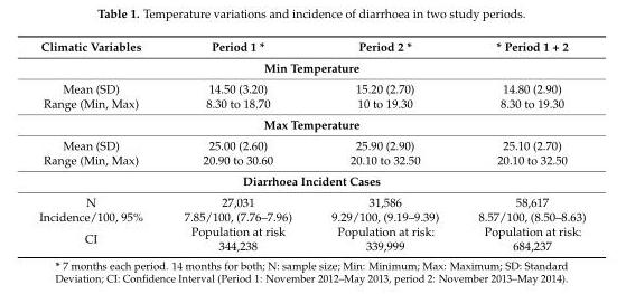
<table><thead><tr><td>Climatic Variables</td><td>Period 1 *</td><td>Period 2 *</td><td>* Period 1 + 2</td></tr></thead><tbody><tr><td colspan="4">Min Temperature</td></tr><tr><td>Mean (SD)</td><td>14.50 (3.20)</td><td>15.20 (2.70)</td><td>14.80 (2.90)</td></tr><tr><td>Range (Min, Max)</td><td>8.30 to 18.70</td><td>10 to 19.30</td><td>8.30 to 19.30</td></tr><tr><td colspan="4">Max Temperature</td></tr><tr><td>Mean (SD)</td><td>25.00 (2.60)</td><td>25.90 (2.90)</td><td>25.10 (2.70)</td></tr><tr><td>Range (Min, Max)</td><td>20.90 to 30.60</td><td>20.10 to 32.50</td><td>20.10 to 32.50</td></tr><tr><td colspan="4">Diarrhoea Incident Cases</td></tr><tr><td>N</td><td>27,031</td><td>31,586</td><td>58,617</td></tr><tr><td>Incidence/100, 95%</td><td>7.85/100, (7.76–7.96)</td><td>9.29/100, (9.19–9.39)</td><td>8.57/100, (8.50–8.63)</td></tr><tr><td>CI</td><td>Population at risk 344,238</td><td>Population at risk: 339,999</td><td>Population at risk: 684,237</td></tr></tbody></table>